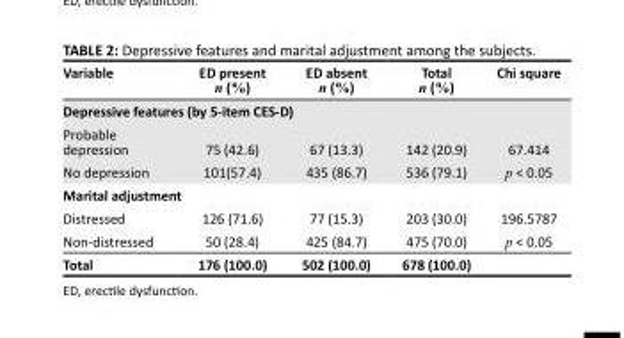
<table><thead><tr><td>Variable</td><td>ED present n (%)</td><td>ED absent n (%)</td><td>Total n (%)</td><td>Chi square</td></tr></thead><tbody><tr><td colspan="5">Depressive features (by 5-item CES-D)</td></tr><tr><td>Probable depression</td><td>75 (42.6)</td><td>67 (13.3)</td><td>142 (20.9)</td><td>67.414</td></tr><tr><td>No depression</td><td>101(57.4)</td><td>435 (86.7)</td><td>536 (79.1)</td><td>p &lt; 0.05</td></tr><tr><td colspan="5">Marital adjustment</td></tr><tr><td>Distressed</td><td>126 (71.6)</td><td>77 (15.3)</td><td>203 (30.0)</td><td>196.5787</td></tr><tr><td>Non-distressed</td><td>50 (28.4)</td><td>425 (84.7)</td><td>475 (70.0)</td><td>p &lt; 0.05</td></tr><tr><td>Total</td><td>176 (100.0)</td><td>502 (100.0)</td><td>678 (100.0)</td><td></td></tr></tbody></table>